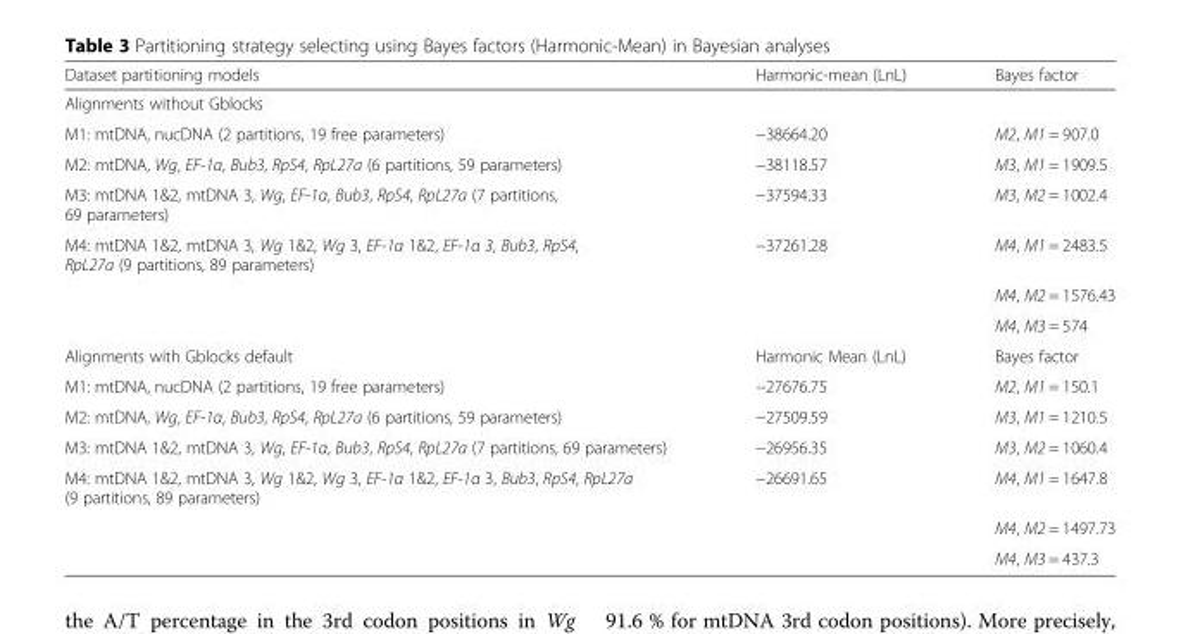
<table><thead><tr><td>Dataset partitioning models</td><td>Harmonic-mean (LnL)</td><td>Bayes factor</td></tr></thead><tbody><tr><td colspan="3">Alignments without Gblocks</td></tr><tr><td>M1: mtDNA, nucDNA (2 partitions, 19 free parameters)</td><td>−38664.20</td><td>M2, M1 = 907.0</td></tr><tr><td>M2: mtDNA, Wg, EF-1α, Bub3, RpS4, RpL27a (6 partitions, 59 parameters)</td><td>−38118.57</td><td>M3, M1 = 1909.5</td></tr><tr><td>M3: mtDNA 1&amp;2, mtDNA 3, Wg, EF-1α, Bub3, RpS4, RpL27a (7 partitions, 69 parameters)</td><td>−37594.33</td><td>M3, M2 = 1002.4</td></tr><tr><td rowspan="3">M4: mtDNA 1&amp;2, mtDNA 3, Wg 1&amp;2, Wg 3, EF-1α 1&amp;2, EF-1α 3, Bub3, RpS4, RpL27a (9 partitions, 89 parameters)</td><td>−37261.28</td><td>M4, M1 = 2483.5</td></tr><tr><td rowspan="2"></td><td>M4, M2 = 1576.43</td></tr><tr><td>M4, M3 = 574</td></tr><tr><td>Alignments with Gblocks default</td><td>Harmonic Mean (LnL)</td><td>Bayes factor</td></tr><tr><td>M1: mtDNA, nucDNA (2 partitions, 19 free parameters)</td><td>−27676.75</td><td>M2, M1 = 150.1</td></tr><tr><td>M2: mtDNA, Wg, EF-1α, Bub3, RpS4, RpL27a (6 partitions, 59 parameters)</td><td>−27509.59</td><td>M3, M1 = 1210.5</td></tr><tr><td>M3: mtDNA 1&amp;2, mtDNA 3, Wg, EF-1α, Bub3, RpS4, RpL27a (7 partitions, 69 parameters)</td><td>−26956.35</td><td>M3, M2 = 1060.4</td></tr><tr><td rowspan="3">M4: mtDNA 1&amp;2, mtDNA 3, Wg 1&amp;2, Wg 3, EF-1α 1&amp;2, EF-1α 3, Bub3, RpS4, RpL27a (9 partitions, 89 parameters)</td><td>−26691.65</td><td>M4, M1 = 1647.8</td></tr><tr><td rowspan="2"></td><td>M4, M2 = 1497.73</td></tr><tr><td>M4, M3 = 437.3</td></tr></tbody></table>